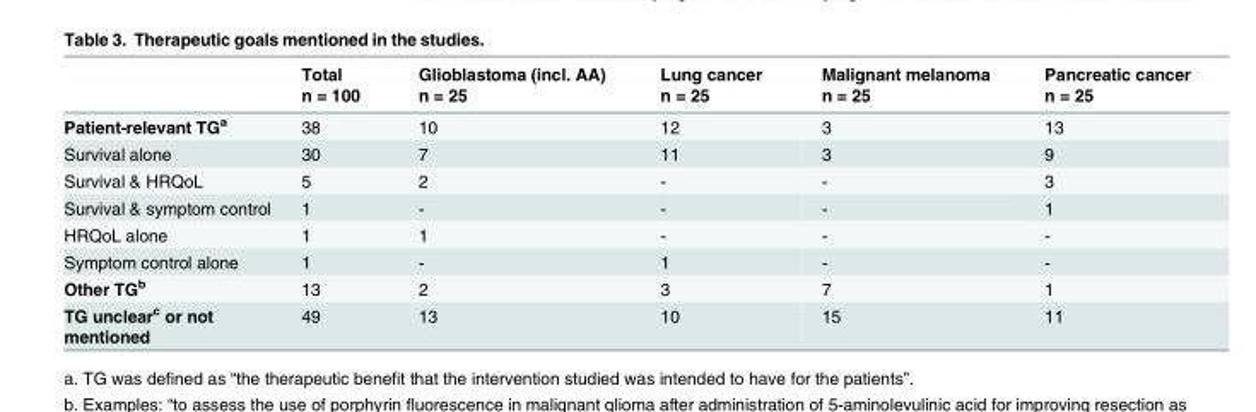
<table><thead><tr><td></td><td>Total n = 100</td><td>Glioblastoma (incl. AA) n = 25</td><td>Lung cancer n = 25</td><td>Malignant melanoma n = 25</td><td>Pancreatic cancer n = 25</td></tr></thead><tbody><tr><td>Patient-relevant TG<sup>a</sup></td><td>38</td><td>10</td><td>12</td><td>3</td><td>13</td></tr><tr><td>Survival alone</td><td>30</td><td>7</td><td>11</td><td>3</td><td>9</td></tr><tr><td>Survival &amp; HRQoL</td><td>5</td><td>2</td><td>-</td><td>-</td><td>3</td></tr><tr><td>Survival &amp; symptom control</td><td>1</td><td>-</td><td>-</td><td>-</td><td>1</td></tr><tr><td>HRQoL alone</td><td>1</td><td>1</td><td>-</td><td>-</td><td>-</td></tr><tr><td>Symptom control alone</td><td>1</td><td>-</td><td>1</td><td>-</td><td>-</td></tr><tr><td>Other TG<sup>b</sup></td><td>13</td><td>2</td><td>3</td><td>7</td><td>1</td></tr><tr><td>TG unclear<sup>c</sup> or not mentioned</td><td>49</td><td>13</td><td>10</td><td>15</td><td>11</td></tr></tbody></table>